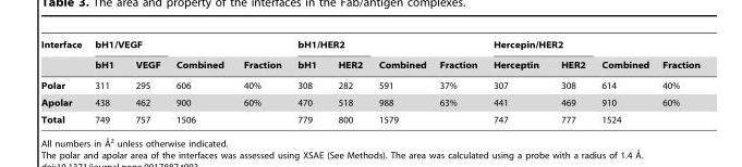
<table><thead><tr><td rowspan="2">Interface</td><td colspan="2">bH1/VEGF</td><td rowspan="2">Combined</td><td rowspan="2">Fraction</td><td colspan="2">bH1/HER2</td><td rowspan="2">Combined</td><td rowspan="2">Fraction</td><td colspan="2">Hercepin/HER2</td><td rowspan="2">Combined</td><td rowspan="2">Fraction</td></tr><tr><td>bH1</td><td>VEGF</td><td>bH1</td><td>HER2</td><td>Herceptin</td><td>HER2</td></tr></thead><tbody><tr><td>Polar</td><td>311</td><td>295</td><td>606</td><td>40%</td><td>308</td><td>282</td><td>591</td><td>37%</td><td>307</td><td>308</td><td>614</td><td>40%</td></tr><tr><td>Apolar</td><td>438</td><td>462</td><td>900</td><td>60%</td><td>470</td><td>518</td><td>988</td><td>63%</td><td>441</td><td>469</td><td>910</td><td>60%</td></tr><tr><td>Total</td><td>749</td><td>757</td><td>1506</td><td></td><td>779</td><td>800</td><td>1579</td><td></td><td>747</td><td>777</td><td>1524</td><td></td></tr></tbody></table>